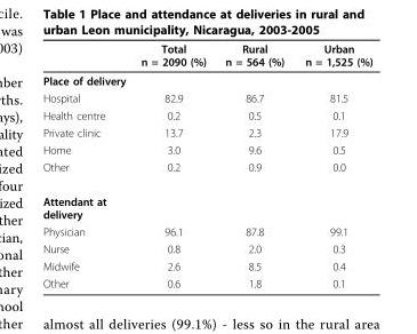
<table><thead><tr><td></td><td>Total n = 2090 (%)</td><td>Rural n = 564 (%)</td><td>Urban n = 1,525 (%)</td></tr></thead><tbody><tr><td colspan="4">Place of delivery</td></tr><tr><td>Hospital</td><td>82.9</td><td>86.7</td><td>81.5</td></tr><tr><td>Health centre</td><td>0.2</td><td>0.5</td><td>0.1</td></tr><tr><td>Private clinic</td><td>13.7</td><td>2.3</td><td>17.9</td></tr><tr><td>Home</td><td>3.0</td><td>9.6</td><td>0.5</td></tr><tr><td>Other</td><td>0.2</td><td>0.9</td><td>0.0</td></tr><tr><td colspan="4">Attendant at delivery</td></tr><tr><td>Physician</td><td>96.1</td><td>87.8</td><td>99.1</td></tr><tr><td>Nurse</td><td>0.8</td><td>2.0</td><td>0.3</td></tr><tr><td>Midwife</td><td>2.6</td><td>8.5</td><td>0.4</td></tr><tr><td>Other</td><td>0.6</td><td>1.8</td><td>0.1</td></tr></tbody></table>